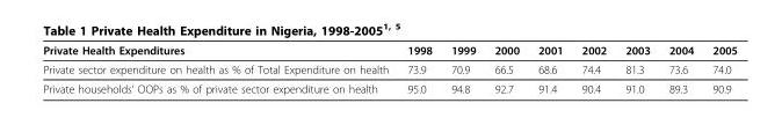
<table><thead><tr><td>Private Health Expenditures</td><td>1998</td><td>1999</td><td>2000</td><td>2001</td><td>2002</td><td>2003</td><td>2004</td><td>2005</td></tr></thead><tbody><tr><td>Private sector expenditure on health as % of Total Expenditure on health</td><td>73.9</td><td>70.9</td><td>66.5</td><td>68.6</td><td>74.4</td><td>81.3</td><td>73.6</td><td>74.0</td></tr><tr><td>Private households’ OOPs as % of private sector expenditure on health</td><td>95.0</td><td>94.8</td><td>92.7</td><td>91.4</td><td>90.4</td><td>91.0</td><td>89.3</td><td>90.9</td></tr></tbody></table>